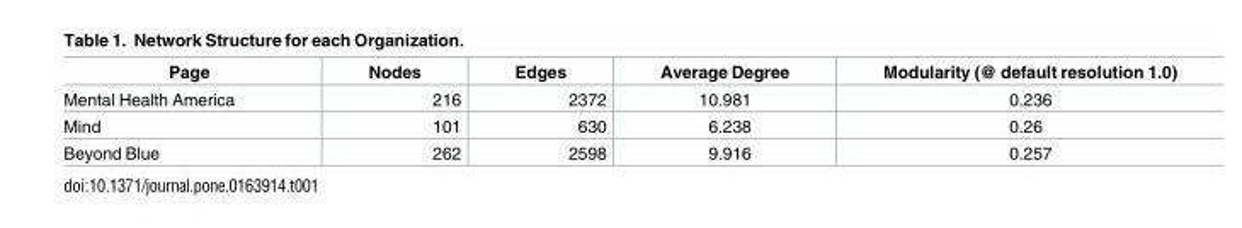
<table><thead><tr><td>Page</td><td>Nodes</td><td>Edges</td><td>Average Degree</td><td>Modularity (@ default resolution 1.0)</td></tr></thead><tbody><tr><td>Mental Health America</td><td>216</td><td>2372</td><td>10.981</td><td>0.236</td></tr><tr><td>Mind</td><td>101</td><td>630</td><td>6.238</td><td>0.26</td></tr><tr><td>Beyond Blue</td><td>262</td><td>2598</td><td>9.916</td><td>0.257</td></tr></tbody></table>